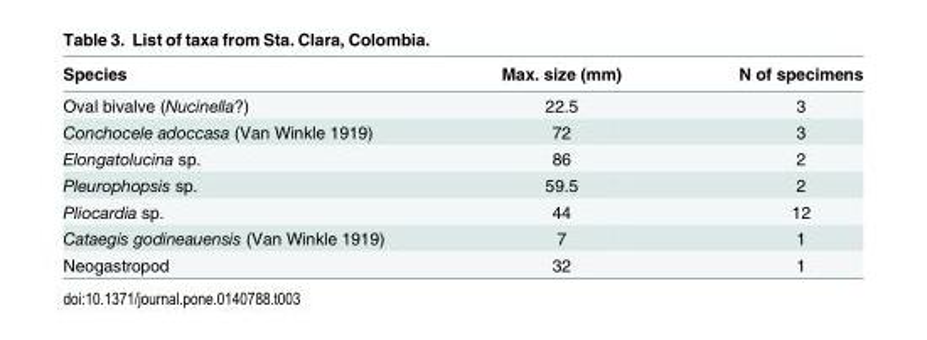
<table><thead><tr><td>Species</td><td>Max. size (mm)</td><td>N of specimens</td></tr></thead><tbody><tr><td>Oval bivalve (Nucinella?)</td><td>22.5</td><td>3</td></tr><tr><td>Conchocele adoccasa (Van Winkle 1919)</td><td>72</td><td>3</td></tr><tr><td>Elongatolucina sp.</td><td>86</td><td>2</td></tr><tr><td>Pleurophopsis sp.</td><td>59.5</td><td>2</td></tr><tr><td>Pliocardia sp.</td><td>44</td><td>12</td></tr><tr><td>Cataegis godineauensis (Van Winkle 1919)</td><td>7</td><td>1</td></tr><tr><td>Neogastropod</td><td>32</td><td>1</td></tr></tbody></table>